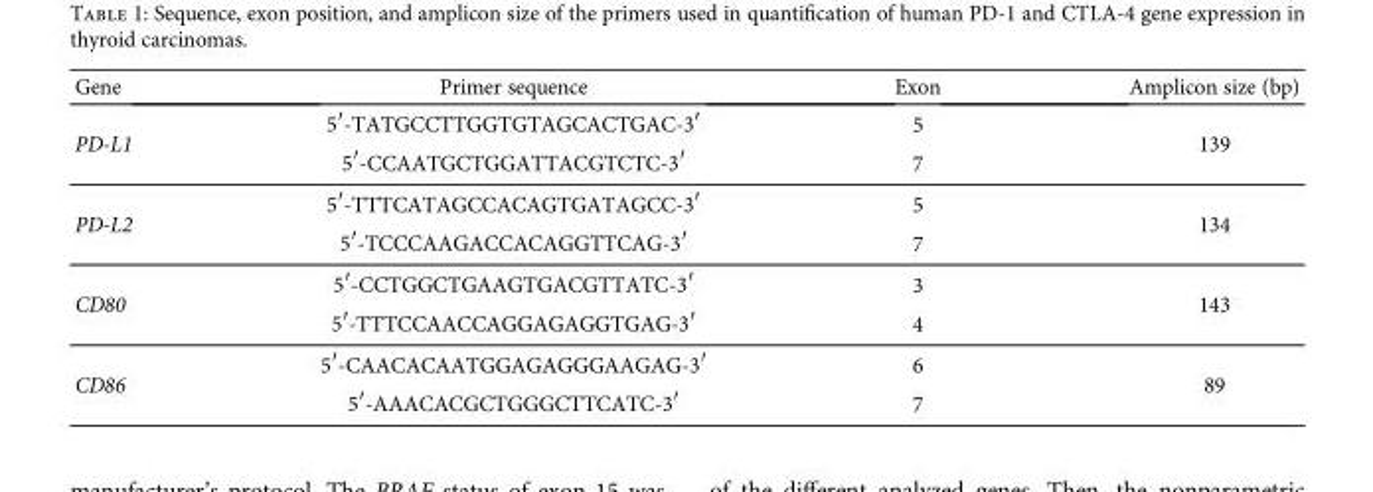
<table><thead><tr><td>Gene</td><td>Primer sequence</td><td>Exon</td><td>Amplicon size (bp)</td></tr></thead><tbody><tr><td rowspan="2">PD-L1</td><td>5′-TATGCCTTGGTGTAGCACTGAC-3′</td><td>5</td><td rowspan="2">139</td></tr><tr><td>5′-CCAATGCTGGATTACGTCTC-3′</td><td>7</td></tr><tr><td rowspan="2">PD-L2</td><td>5′-TTTCATAGCCACAGTGATAGCC-3′</td><td>5</td><td rowspan="2">134</td></tr><tr><td>5′-TCCCAAGACCACAGGTTCAG-3′</td><td>7</td></tr><tr><td rowspan="2">CD80</td><td>5′-CCTGGCTGAAGTGACGTTATC-3′</td><td>3</td><td rowspan="2">143</td></tr><tr><td>5′-TTTCCAACCAGGAGAGGTGAG-3′</td><td>4</td></tr><tr><td rowspan="2">CD86</td><td>5′-CAACACAATGGAGAGGGAAGAG-3′</td><td>6</td><td rowspan="2">89</td></tr><tr><td>5′-AAACACGCTGGGCTTCATC-3′</td><td>7</td></tr></tbody></table>